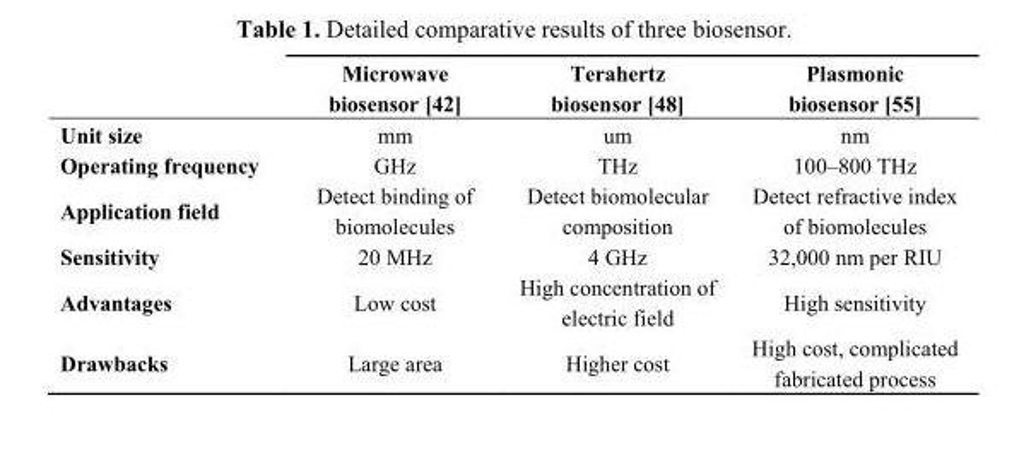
<table><thead><tr><td></td><td>Microwave biosensor [42]</td><td>Terahertz biosensor [48]</td><td>Plasmonic biosensor [55]</td></tr></thead><tbody><tr><td>Unit size</td><td>mm</td><td>um</td><td>nm</td></tr><tr><td>Operating frequency</td><td>GHz</td><td>THz</td><td>100–800 THz</td></tr><tr><td>Application field</td><td>Detect binding of biomolecules</td><td>Detect biomolecular composition</td><td>Detect refractive index of biomolecules</td></tr><tr><td>Sensitivity</td><td>20 MHz</td><td>4 GHz</td><td>32,000 nm per RIU</td></tr><tr><td>Advantages</td><td>Low cost</td><td>High concentration of electric field</td><td>High sensitivity</td></tr><tr><td>Drawbacks</td><td>Large area</td><td>Higher cost</td><td>High cost, complicated fabricated process</td></tr></tbody></table>